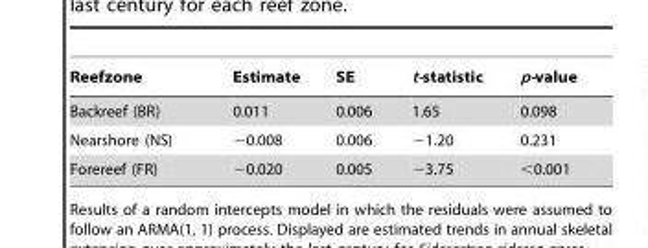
<table><thead><tr><td>Reefzone</td><td>Estimate</td><td>SE</td><td>t-statistic</td><td>p-value</td></tr></thead><tbody><tr><td>Backreef (BR)</td><td>0.011</td><td>0.006</td><td>1.65</td><td>0.098</td></tr><tr><td>Nearshore (NS)</td><td>−0.008</td><td>0.006</td><td>−1.20</td><td>0.231</td></tr><tr><td>Forereef (FR)</td><td>−0.020</td><td>0.005</td><td>−3.75</td><td>&lt;0.001</td></tr></tbody></table>